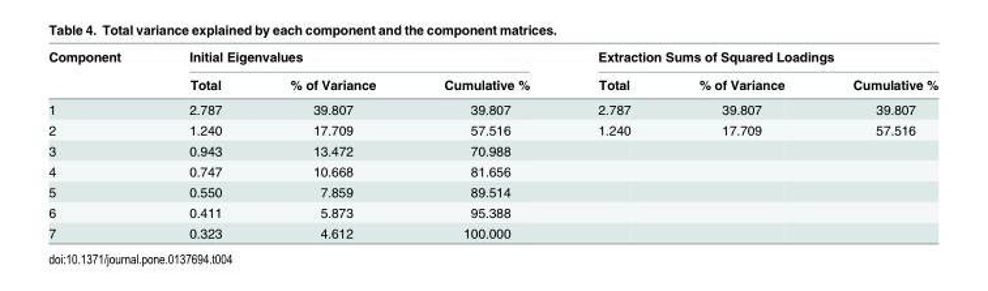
<table><thead><tr><td rowspan="2">Component</td><td colspan="3">Initial Eigenvalues</td><td colspan="3">Extraction Sums of Squared Loadings</td></tr><tr><td>Total</td><td>% of Variance</td><td>Cumulative %</td><td>Total</td><td>% of Variance</td><td>Cumulative %</td></tr></thead><tbody><tr><td>1</td><td>2.787</td><td>39.807</td><td>39.807</td><td>2.787</td><td>39.807</td><td>39.807</td></tr><tr><td>2</td><td>1.240</td><td>17.709</td><td>57.516</td><td>1.240</td><td>17.709</td><td>57.516</td></tr><tr><td>3</td><td>0.943</td><td>13.472</td><td>70.988</td><td></td><td></td><td></td></tr><tr><td>4</td><td>0.747</td><td>10.668</td><td>81.656</td><td></td><td></td><td></td></tr><tr><td>5</td><td>0.550</td><td>7.859</td><td>89.514</td><td></td><td></td><td></td></tr><tr><td>6</td><td>0.411</td><td>5.873</td><td>95.388</td><td></td><td></td><td></td></tr><tr><td>7</td><td>0.323</td><td>4.612</td><td>100.000</td><td></td><td></td><td></td></tr></tbody></table>